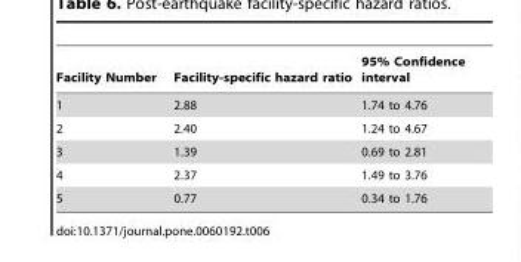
<table><thead><tr><td>Facility Number</td><td>Facility-specific hazard ratio</td><td>95% Confidence interval</td></tr></thead><tbody><tr><td>1</td><td>2.88</td><td>1.74 to 4.76</td></tr><tr><td>2</td><td>2.40</td><td>1.24 to 4.67</td></tr><tr><td>3</td><td>1.39</td><td>0.69 to 2.81</td></tr><tr><td>4</td><td>2.37</td><td>1.49 to 3.76</td></tr><tr><td>5</td><td>0.77</td><td>0.34 to 1.76</td></tr></tbody></table>